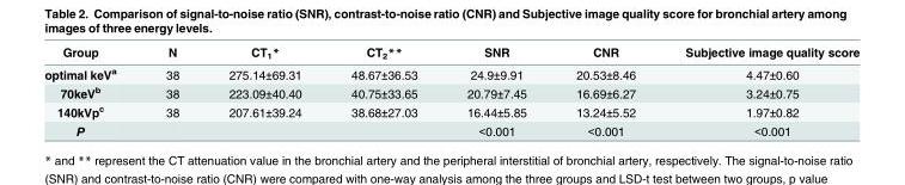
<table><thead><tr><td>Group</td><td>N</td><td>CT<sub>1</sub>*</td><td>CT<sub>2</sub>**</td><td>SNR</td><td>CNR</td><td>Subjective image quality score</td></tr></thead><tbody><tr><td>optimal keV<sup>a</sup></td><td>38</td><td>275.14±69.31</td><td>48.67±36.53</td><td>24.9±9.91</td><td>20.53±8.46</td><td>4.47±0.60</td></tr><tr><td>70keV<sup>b</sup></td><td>38</td><td>223.09±40.40</td><td>40.75±33.65</td><td>20.79±7.45</td><td>16.69±6.27</td><td>3.24±0.75</td></tr><tr><td>140kVp<sup>c</sup></td><td>38</td><td>207.61±39.24</td><td>38.68±27.03</td><td>16.44±5.85</td><td>13.24±5.52</td><td>1.97±0.82</td></tr><tr><td>P</td><td></td><td></td><td></td><td>&lt;0.001</td><td>&lt;0.001</td><td>&lt;0.001</td></tr></tbody></table>